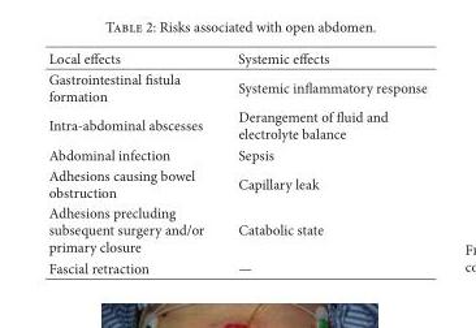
<table><thead><tr><td>Local effects</td><td>Systemic effects</td></tr></thead><tbody><tr><td>Gastrointestinal fistula formation</td><td>Systemic inflammatory response</td></tr><tr><td>Intra-abdominal abscesses</td><td>Derangement of fluid and electrolyte balance</td></tr><tr><td>Abdominal infection</td><td>Sepsis</td></tr><tr><td>Adhesions causing bowel obstruction</td><td>Capillary leak</td></tr><tr><td>Adhesions precluding subsequent surgery and/or primary closure</td><td>Catabolic state</td></tr><tr><td>Fascial retraction</td><td>—</td></tr></tbody></table>